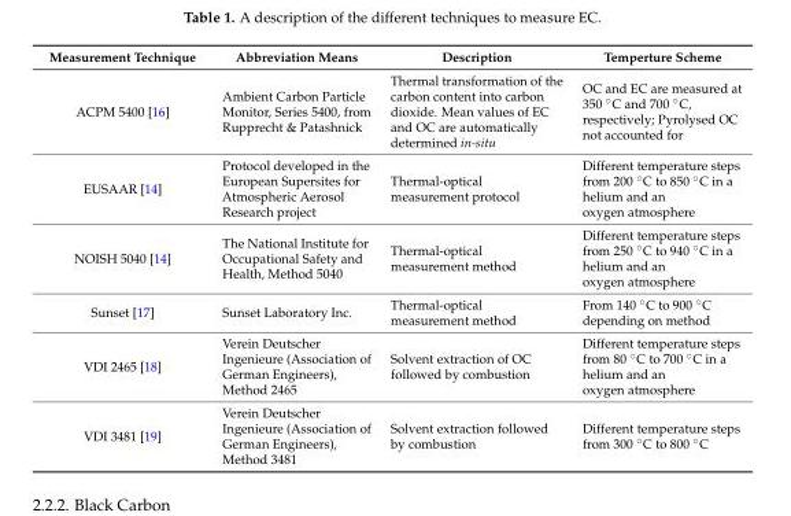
<table><thead><tr><td>Measurement Technique</td><td>Abbreviation Means</td><td>Description</td><td>Temperture Scheme</td></tr></thead><tbody><tr><td>ACPM 5400 [16]</td><td>Ambient Carbon Particle Monitor, Series 5400, from Rupprecht &amp; Patashnick</td><td>Thermal transformation of the carbon content into carbon dioxide. Mean values of EC and OC are automatically determined in-situ</td><td>OC and EC are measured at 350 ˝C and 700 ˝C, respectively; Pyrolysed OC not accounted for</td></tr><tr><td>EUSAAR [14]</td><td>Protocol developed in the European Supersites for Atmospheric Aerosol Research project</td><td>Thermal-optical measurement protocol</td><td>Different temperature steps from 200 ˝C to 850 ˝C in a helium and an oxygen atmosphere</td></tr><tr><td>NOISH 5040 [14]</td><td>The National Institute for Occupational Safety and Health, Method 5040</td><td>Thermal-optical measurement method</td><td>Different temperature steps from 250 ˝C to 940 ˝C in a helium and an oxygen atmosphere</td></tr><tr><td>Sunset [17]</td><td>Sunset Laboratory Inc.</td><td>Thermal-optical measurement method</td><td>From 140 ˝C to 900 ˝C depending on method</td></tr><tr><td>VDI 2465 [18]</td><td>Verein Deutscher Ingenieure (Association of German Engineers), Method 2465</td><td>Solvent extraction of OC followed by combustion</td><td>Different temperature steps from 80 ˝C to 700 ˝C in a helium and an oxygen atmosphere</td></tr><tr><td>VDI 3481 [19]</td><td>Verein Deutscher Ingenieure (Association of German Engineers), Method 3481</td><td>Solvent extraction followed by combustion</td><td>Different temperature steps from 300 ˝C to 800 ˝C</td></tr></tbody></table>